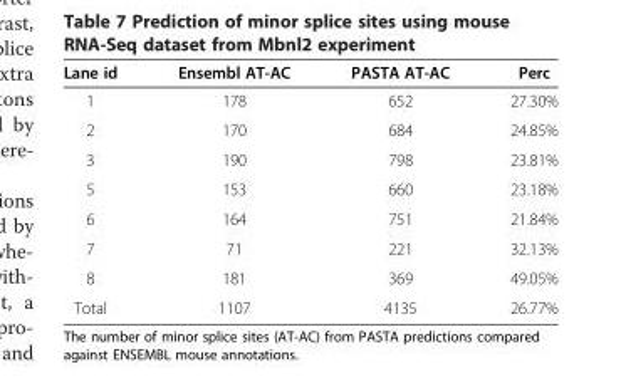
<table><thead><tr><td>Lane id</td><td>Ensembl AT-AC</td><td>PASTA AT-AC</td><td>Perc</td></tr></thead><tbody><tr><td>1</td><td>178</td><td>652</td><td>27.30%</td></tr><tr><td>2</td><td>170</td><td>684</td><td>24.85%</td></tr><tr><td>3</td><td>190</td><td>798</td><td>23.81%</td></tr><tr><td>5</td><td>153</td><td>660</td><td>23.18%</td></tr><tr><td>6</td><td>164</td><td>751</td><td>21.84%</td></tr><tr><td>7</td><td>71</td><td>221</td><td>32.13%</td></tr><tr><td>8</td><td>181</td><td>369</td><td>49.05%</td></tr><tr><td>Total</td><td>1107</td><td>4135</td><td>26.77%</td></tr></tbody></table>